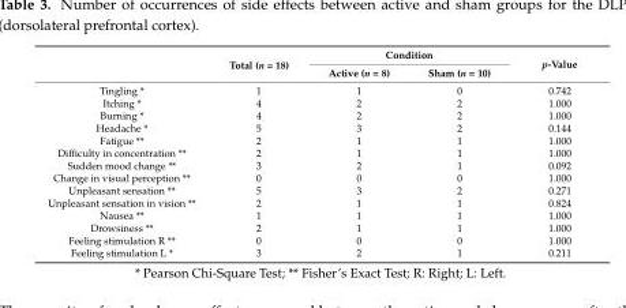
<table><thead><tr><td rowspan="2"></td><td rowspan="2">Total (n = 18)</td><td colspan="2">Condition</td><td rowspan="2">p-Value</td></tr><tr><td>Active (n = 8)</td><td>Sham (n = 10)</td></tr></thead><tbody><tr><td>Tingling *</td><td>1</td><td>1</td><td>0</td><td>0.742</td></tr><tr><td>Itching *</td><td>4</td><td>2</td><td>2</td><td>1.000</td></tr><tr><td>Burning *</td><td>4</td><td>2</td><td>2</td><td>1.000</td></tr><tr><td>Headache *</td><td>5</td><td>3</td><td>2</td><td>0.144</td></tr><tr><td>Fatigue **</td><td>2</td><td>1</td><td>1</td><td>1.000</td></tr><tr><td>Difficulty in concentration **</td><td>2</td><td>1</td><td>1</td><td>1.000</td></tr><tr><td>Sudden mood change **</td><td>3</td><td>2</td><td>1</td><td>0.092</td></tr><tr><td>Change in visual perception **</td><td>0</td><td>0</td><td>0</td><td>1.000</td></tr><tr><td>Unpleasant sensation **</td><td>5</td><td>3</td><td>2</td><td>0.271</td></tr><tr><td>Unpleasant sensation in vision **</td><td>2</td><td>1</td><td>1</td><td>0.824</td></tr><tr><td>Nausea **</td><td>1</td><td>1</td><td>1</td><td>1.000</td></tr><tr><td>Drowsiness **</td><td>2</td><td>1</td><td>1</td><td>1.000</td></tr><tr><td>Feeling stimulation R **</td><td>0</td><td>0</td><td>0</td><td>1.000</td></tr><tr><td>Feeling stimulation L *</td><td>3</td><td>2</td><td>1</td><td>0.211</td></tr></tbody></table>